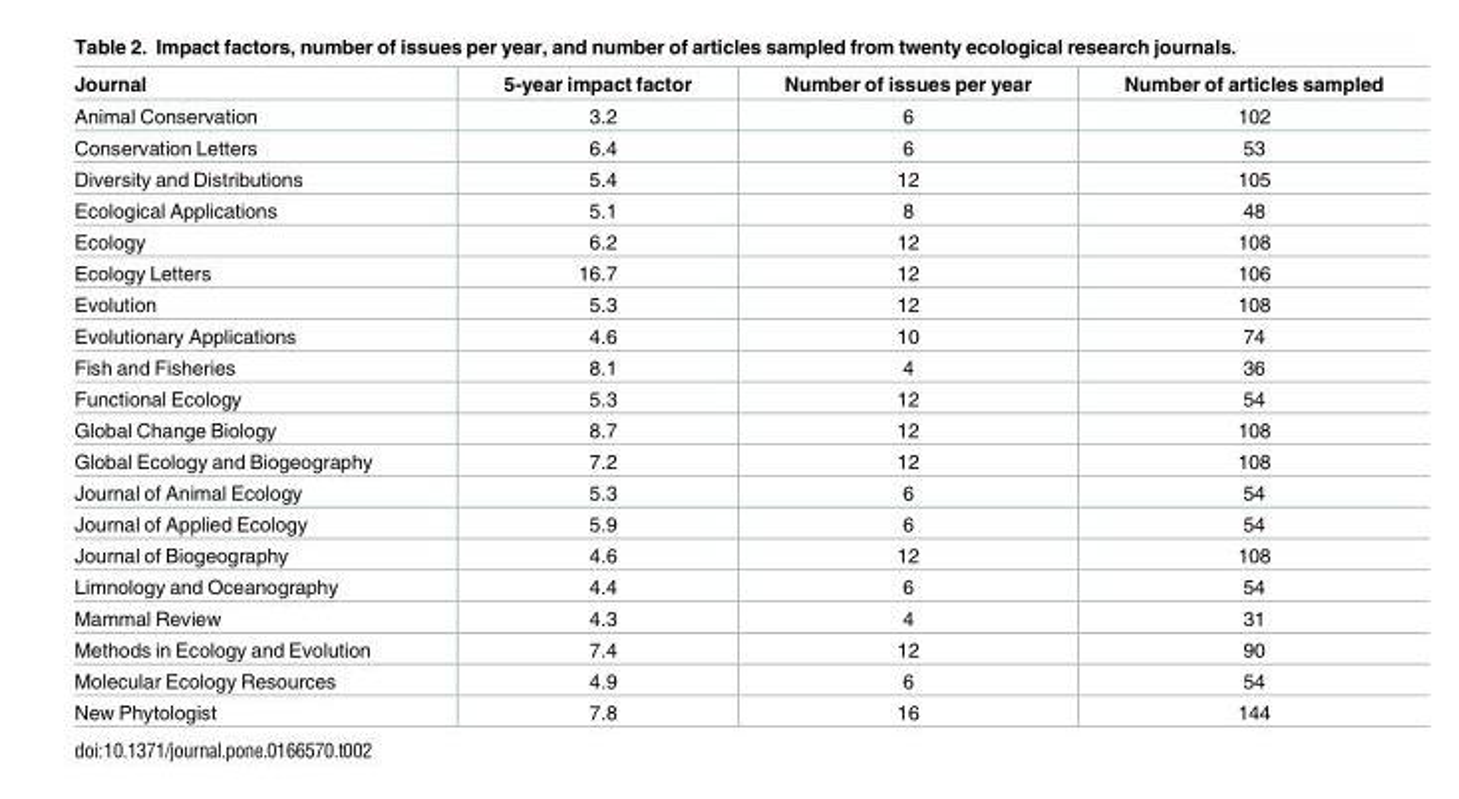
<table><thead><tr><td>Journal</td><td>5-year impact factor</td><td>Number of issues per year</td><td>Number of articles sampled</td></tr></thead><tbody><tr><td>Animal Conservation</td><td>3.2</td><td>6</td><td>102</td></tr><tr><td>Conservation Letters</td><td>6.4</td><td>6</td><td>53</td></tr><tr><td>Diversity and Distributions</td><td>5.4</td><td>12</td><td>105</td></tr><tr><td>Ecological Applications</td><td>5.1</td><td>8</td><td>48</td></tr><tr><td>Ecology</td><td>6.2</td><td>12</td><td>108</td></tr><tr><td>Ecology Letters</td><td>16.7</td><td>12</td><td>106</td></tr><tr><td>Evolution</td><td>5.3</td><td>12</td><td>108</td></tr><tr><td>Evolutionary Applications</td><td>4.6</td><td>10</td><td>74</td></tr><tr><td>Fish and Fisheries</td><td>8.1</td><td>4</td><td>36</td></tr><tr><td>Functional Ecology</td><td>5.3</td><td>12</td><td>54</td></tr><tr><td>Global Change Biology</td><td>8.7</td><td>12</td><td>108</td></tr><tr><td>Global Ecology and Biogeography</td><td>7.2</td><td>12</td><td>108</td></tr><tr><td>Journal of Animal Ecology</td><td>5.3</td><td>6</td><td>54</td></tr><tr><td>Journal of Applied Ecology</td><td>5.9</td><td>6</td><td>54</td></tr><tr><td>Journal of Biogeography</td><td>4.6</td><td>12</td><td>108</td></tr><tr><td>Limnology and Oceanography</td><td>4.4</td><td>6</td><td>54</td></tr><tr><td>Mammal Review</td><td>4.3</td><td>4</td><td>31</td></tr><tr><td>Methods in Ecology and Evolution</td><td>7.4</td><td>12</td><td>90</td></tr><tr><td>Molecular Ecology Resources</td><td>4.9</td><td>6</td><td>54</td></tr><tr><td>New Phytologist</td><td>7.8</td><td>16</td><td>144</td></tr></tbody></table>